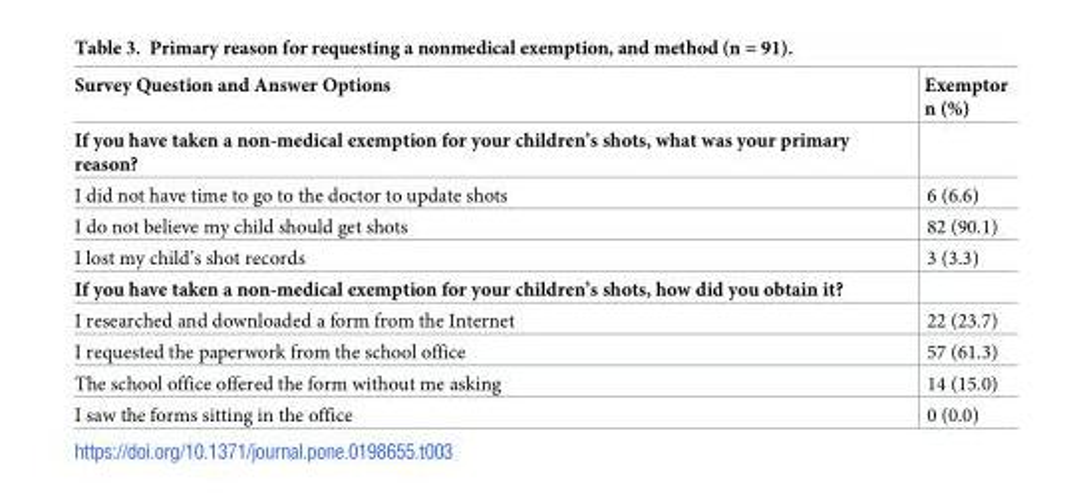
<table><thead><tr><td>Survey Question and Answer Options</td><td>Exemptor n (%)</td></tr></thead><tbody><tr><td colspan="2">If you have taken a non-medical exemption for your children’s shots, what was your primary reason?</td></tr><tr><td>I did not have time to go to the doctor to update shots</td><td>6 (6.6)</td></tr><tr><td>I do not believe my child should get shots</td><td>82 (90.1)</td></tr><tr><td>I lost my child’s shot records</td><td>3 (3.3)</td></tr><tr><td colspan="2">If you have taken a non-medical exemption for your children’s shots, how did you obtain it?</td></tr><tr><td>I researched and downloaded a form from the Internet</td><td>22 (23.7)</td></tr><tr><td>I requested the paperwork from the school office</td><td>57 (61.3)</td></tr><tr><td>The school office offered the form without me asking</td><td>14 (15.0)</td></tr><tr><td>I saw the forms sitting in the office</td><td>0 (0.0)</td></tr></tbody></table>